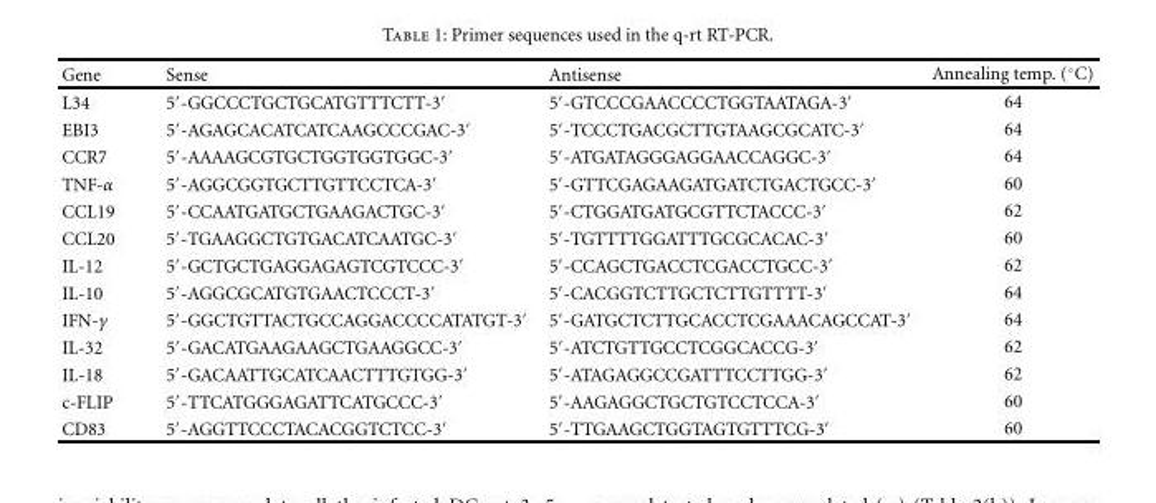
<table><thead><tr><td>Gene</td><td>Sense</td><td>Antisense</td><td>Annealing temp. (◦C)</td></tr></thead><tbody><tr><td>L34</td><td>5′-GGCCCTGCTGCATGTTTCTT-3′</td><td>5′-GTCCCGAACCCCTGGTAATAGA-3′</td><td>64</td></tr><tr><td>EBI3</td><td>5′-AGAGCACATCATCAAGCCCGAC-3′</td><td>5′-TCCCTGACGCTTGTAAGCGCATC-3′</td><td>64</td></tr><tr><td>CCR7</td><td>5′-AAAAGCGTGCTGGTGGTGGC-3′</td><td>5′-ATGATAGGGAGGAACCAGGC-3′</td><td>64</td></tr><tr><td>TNF-α</td><td>5′-AGGCGGTGCTTGTTCCTCA-3′</td><td>5′-GTTCGAGAAGATGATCTGACTGCC-3′</td><td>60</td></tr><tr><td>CCL19</td><td>5′-CCAATGATGCTGAAGACTGC-3′</td><td>5′-CTGGATGATGCGTTCTACCC-3′</td><td>62</td></tr><tr><td>CCL20</td><td>5′-TGAAGGCTGTGACATCAATGC-3′</td><td>5′-TGTTTTGGATTTGCGCACAC-3′</td><td>60</td></tr><tr><td>IL-12</td><td>5′-GCTGCTGAGGAGAGTCGTCCC-3′</td><td>5′-CCAGCTGACCTCGACCTGCC-3′</td><td>62</td></tr><tr><td>IL-10</td><td>5′-AGGCGCATGTGAACTCCCT-3′</td><td>5′-CACGGTCTTGCTCTTGTTTT-3′</td><td>64</td></tr><tr><td>IFN-γ</td><td>5′-GGCTGTTACTGCCAGGACCCCATATGT-3′</td><td>5′-GATGCTCTTGCACCTCGAAACAGCCAT-3′</td><td>64</td></tr><tr><td>IL-32</td><td>5′-GACATGAAGAAGCTGAAGGCC-3′</td><td>5′-ATCTGTTGCCTCGGCACCG-3′</td><td>62</td></tr><tr><td>IL-18</td><td>5′-GACAATTGCATCAACTTTGTGG-3′</td><td>5′-ATAGAGGCCGATTTCCTTGG-3′</td><td>62</td></tr><tr><td>c-FLIP</td><td>5′-TTCATGGGAGATTCATGCCC-3′</td><td>5′-AAGAGGCTGCTGTCCTCCA-3′</td><td>60</td></tr><tr><td>CD83</td><td>5′-AGGTTCCCTACACGGTCTCC-3′</td><td>5′-TTGAAGCTGGTAGTGTTTCG-3′</td><td>60</td></tr></tbody></table>